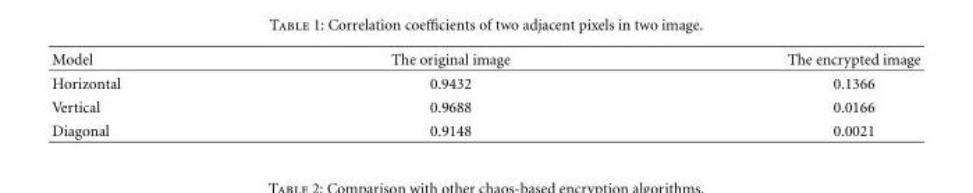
<table><thead><tr><td>Model</td><td>The original image</td><td>The encrypted image</td></tr></thead><tbody><tr><td>Horizontal</td><td>0.9432</td><td>0.1366</td></tr><tr><td>Vertical</td><td>0.9688</td><td>0.0166</td></tr><tr><td>Diagonal</td><td>0.9148</td><td>0.0021</td></tr></tbody></table>